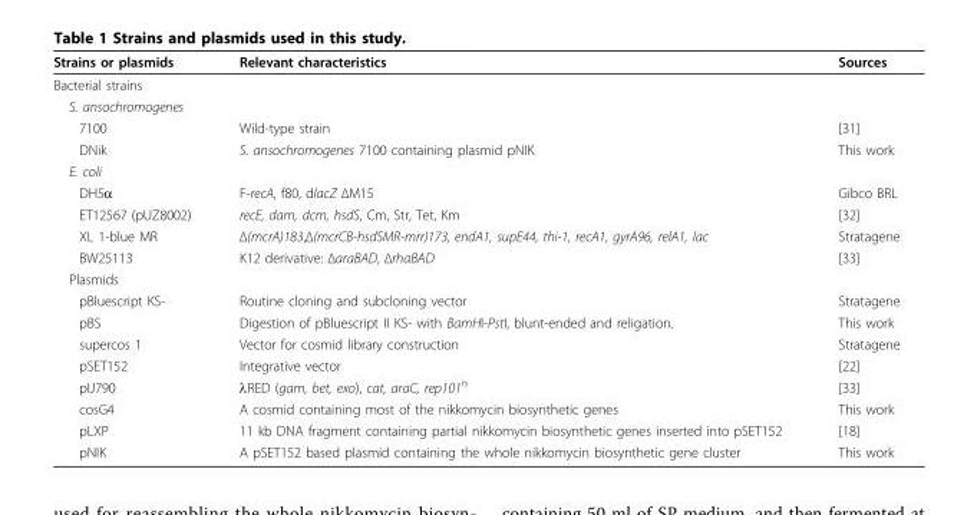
<table><thead><tr><td>Strains or plasmids</td><td>Relevant characteristics</td><td>Sources</td></tr></thead><tbody><tr><td colspan="3">Bacterial strains</td></tr><tr><td colspan="3">S. ansochromogenes</td></tr><tr><td>7100</td><td>Wild-type strain</td><td>[31]</td></tr><tr><td>DNik</td><td>S. ansochromogenes 7100 containing plasmid pNIK</td><td>This work</td></tr><tr><td colspan="3">E. coli</td></tr><tr><td>DH5α</td><td>F-recA, f80, dlacZ ΔM15</td><td>Gibco BRL</td></tr><tr><td>ET12567 (pUZ8002)</td><td>recE, dam, dcm, hsdS, Cm, Str, Tet, Km</td><td>[32]</td></tr><tr><td>XL 1-blue MR</td><td>Δ(mcrA)183,Δ(mcrCB-hsdSMR-mrr)173, endA1, supE44, thi-1, recA1, gyrA96, relA1, lac</td><td>Stratagene</td></tr><tr><td>BW25113</td><td>K12 derivative: ΔaraBAD, ΔrhaBAD</td><td>[33]</td></tr><tr><td colspan="3">Plasmids</td></tr><tr><td>pBluescript KS-</td><td>Routine cloning and subcloning vector</td><td>Stratagene</td></tr><tr><td>pBS</td><td>Digestion of pBluescript II KS- with BamHI-PstI, blunt-ended and religation.</td><td>This work</td></tr><tr><td>supercos 1</td><td>Vector for cosmid library construction</td><td>Stratagene</td></tr><tr><td>pSET152</td><td>Integrative vector</td><td>[22]</td></tr><tr><td>pIJ790</td><td>λRED (gam, bet, exo), cat, araC, rep101<sup>ts</sup></td><td>[33]</td></tr><tr><td>cosG4</td><td>A cosmid containing most of the nikkomycin biosynthetic genes</td><td>This work</td></tr><tr><td>pLXP</td><td>11 kb DNA fragment containing partial nikkomycin biosynthetic genes inserted into pSET152</td><td>[18]</td></tr><tr><td>pNIK</td><td>A pSET152 based plasmid containing the whole nikkomycin biosynthetic gene cluster</td><td>This work</td></tr></tbody></table>